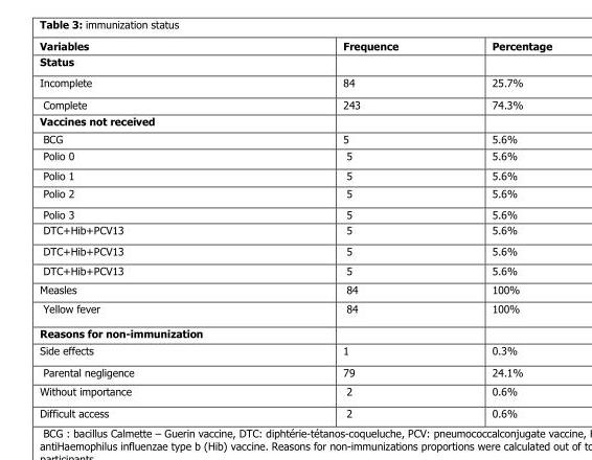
<table><thead><tr><td>Variables</td><td>Frequence</td><td>Percentage</td></tr></thead><tbody><tr><td colspan="3">Status</td></tr><tr><td>Incomplete</td><td>84</td><td>25.7%</td></tr><tr><td>Complete</td><td>243</td><td>74.3%</td></tr><tr><td colspan="3">Vaccines not received</td></tr><tr><td>BCG</td><td>5</td><td>5.6%</td></tr><tr><td>Polio 0</td><td>5</td><td>5.6%</td></tr><tr><td>Polio 1</td><td>5</td><td>5.6%</td></tr><tr><td>Polio 2</td><td>5</td><td>5.6%</td></tr><tr><td>Polio 3</td><td>5</td><td>5.6%</td></tr><tr><td>DTC+Hib+PCV13</td><td>5</td><td>5.6%</td></tr><tr><td>DTC+Hib+PCV13</td><td>5</td><td>5.6%</td></tr><tr><td>DTC+Hib+PCV13</td><td>5</td><td>5.6%</td></tr><tr><td>Measles</td><td>84</td><td>100%</td></tr><tr><td>Yellow fever</td><td>84</td><td>100%</td></tr><tr><td colspan="3">Reasons for non-immunization</td></tr><tr><td>Side effects</td><td>1</td><td>0.3%</td></tr><tr><td>Parental negligence</td><td>79</td><td>24.1%</td></tr><tr><td>Without importance</td><td>2</td><td>0.6%</td></tr><tr><td>Difficult access</td><td>2</td><td>0.6%</td></tr></tbody></table>